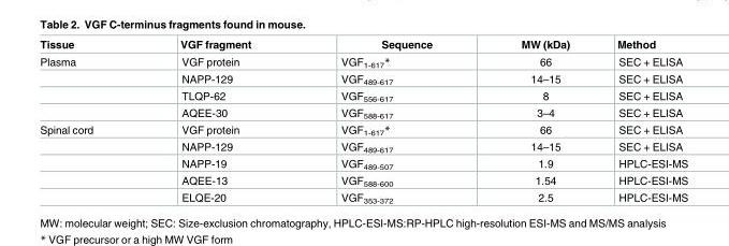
<table><thead><tr><td>Tissue</td><td>VGF fragment</td><td>Sequence</td><td>MW (kDa)</td><td>Method</td></tr></thead><tbody><tr><td rowspan="4">Plasma</td><td>VGF protein</td><td>VGF<sub>1-617</sub>*</td><td>66</td><td>SEC + ELISA</td></tr><tr><td>NAPP-129</td><td>VGF<sub>489-617</sub></td><td>14–15</td><td>SEC + ELISA</td></tr><tr><td>TLQP-62</td><td>VGF<sub>556-617</sub></td><td>8</td><td>SEC + ELISA</td></tr><tr><td>AQEE-30</td><td>VGF<sub>588-617</sub></td><td>3–4</td><td>SEC + ELISA</td></tr><tr><td rowspan="5">Spinal cord</td><td>VGF protein</td><td>VGF<sub>1-617</sub>*</td><td>66</td><td>SEC + ELISA</td></tr><tr><td>NAPP-129</td><td>VGF<sub>489-617</sub></td><td>14–15</td><td>SEC + ELISA</td></tr><tr><td>NAPP-19</td><td>VGF<sub>489-507</sub></td><td>1.9</td><td>HPLC-ESI-MS</td></tr><tr><td>AQEE-13</td><td>VGF<sub>588-600</sub></td><td>1.54</td><td>HPLC-ESI-MS</td></tr><tr><td>ELQE-20</td><td>VGF<sub>353-372</sub></td><td>2.5</td><td>HPLC-ESI-MS</td></tr></tbody></table>